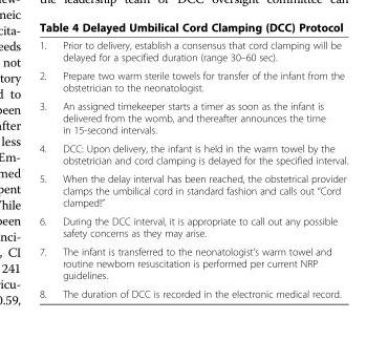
<table><tbody><tr><td>1.</td><td>Prior to delivery, establish a consensus that cord clamping will be delayed for a specified duration (range 30–60 sec).</td></tr><tr><td>2.</td><td>Prepare two warm sterile towels for transfer of the infant from the obstetrician to the neonatologist.</td></tr><tr><td>3.</td><td>An assigned timekeeper starts a timer as soon as the infant is delivered from the womb, and thereafter announces the time in 15-second intervals.</td></tr><tr><td>4.</td><td>DCC: Upon delivery, the infant is held in the warm towel by the obstetrician and cord clamping is delayed for the specified interval.</td></tr><tr><td>5.</td><td>When the delay interval has been reached, the obstetrical provider clamps the umbilical cord in standard fashion and calls out “Cord clamped!”</td></tr><tr><td>6.</td><td>During the DCC interval, it is appropriate to call out any possible safety concerns as they may arise.</td></tr><tr><td>7.</td><td>The infant is transferred to the neonatologist’s warm towel and routine newborn resuscitation is performed per current NRP guidelines.</td></tr><tr><td>8.</td><td>The duration of DCC is recorded in the electronic medical record.</td></tr></tbody></table>